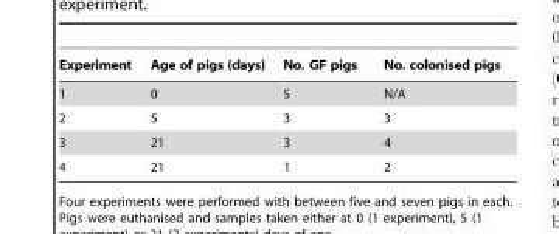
<table><thead><tr><td>Experiment</td><td>Age of pigs (days)</td><td>No. GF pigs</td><td>No. colonised pigs</td></tr></thead><tbody><tr><td>1</td><td>0</td><td>5</td><td>N/A</td></tr><tr><td>2</td><td>5</td><td>3</td><td>3</td></tr><tr><td>3</td><td>21</td><td>3</td><td>4</td></tr><tr><td>4</td><td>21</td><td>1</td><td>2</td></tr></tbody></table>